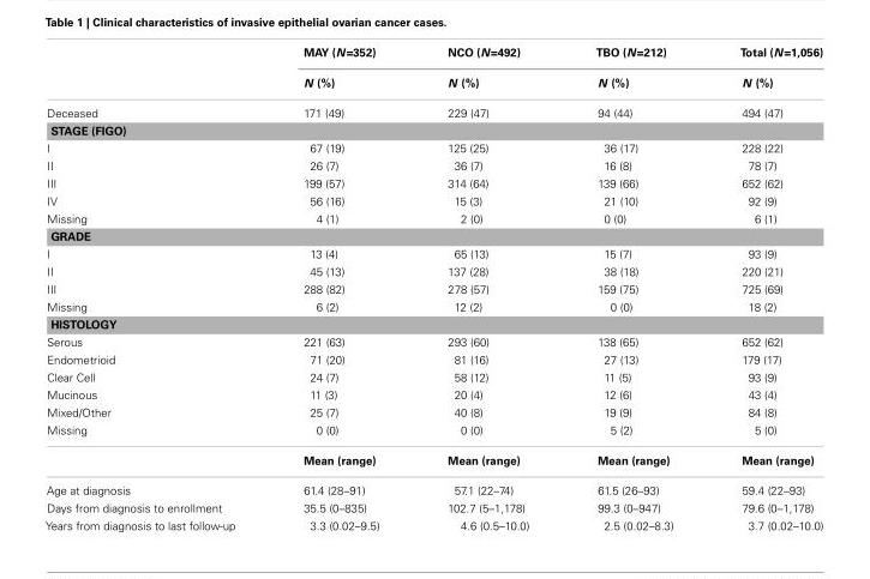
<table><thead><tr><td rowspan="2"></td><td rowspan="2">MAY (N=352) N (%)</td><td rowspan="2">NCO (N=492) N (%)</td><td rowspan="2">TBO (N=212) N (%)</td><td rowspan="2">Total (N=1,056) N (%)</td></tr><tr></tr></thead><tbody><tr><td>Deceased</td><td>171 (49)</td><td>229 (47)</td><td>94 (44)</td><td>494 (47)</td></tr><tr><td colspan="5">STAGE (FIGO)</td></tr><tr><td>I</td><td>67 (19)</td><td>125 (25)</td><td>36 (17)</td><td>228 (22)</td></tr><tr><td>II</td><td>26 (7)</td><td>36 (7)</td><td>16 (8)</td><td>78 (7)</td></tr><tr><td>III</td><td>199 (57)</td><td>314 (64)</td><td>139 (66)</td><td>652 (62)</td></tr><tr><td>IV</td><td>56 (16)</td><td>15 (3)</td><td>21 (10)</td><td>92 (9)</td></tr><tr><td>Missing</td><td>4 (1)</td><td>2 (0)</td><td>0 (0)</td><td>6 (1)</td></tr><tr><td colspan="5">GRADE</td></tr><tr><td>I</td><td>13 (4)</td><td>65 (13)</td><td>15 (7)</td><td>93 (9)</td></tr><tr><td>II</td><td>45 (13)</td><td>137 (28)</td><td>38 (18)</td><td>220 (21)</td></tr><tr><td>III</td><td>288 (82)</td><td>278 (57)</td><td>159 (75)</td><td>725 (69)</td></tr><tr><td>Missing</td><td>6 (2)</td><td>12 (2)</td><td>0 (0)</td><td>18 (2)</td></tr><tr><td colspan="5">HISTOLOGY</td></tr><tr><td>Serous</td><td>221 (63)</td><td>293 (60)</td><td>138 (65)</td><td>652 (62)</td></tr><tr><td>Endometrioid</td><td>71 (20)</td><td>81 (16)</td><td>27 (13)</td><td>179 (17)</td></tr><tr><td>Clear Cell</td><td>24 (7)</td><td>58 (12)</td><td>11 (5)</td><td>93 (9)</td></tr><tr><td>Mucinous</td><td>11 (3)</td><td>20 (4)</td><td>12 (6)</td><td>43 (4)</td></tr><tr><td>Mixed/Other</td><td>25 (7)</td><td>40 (8)</td><td>19 (9)</td><td>84 (8)</td></tr><tr><td rowspan="2">Missing</td><td>0 (0)</td><td>0 (0)</td><td>5 (2)</td><td>5 (0)</td></tr><tr><td>Mean (range)</td><td>Mean (range)</td><td>Mean (range)</td><td>Mean (range)</td></tr><tr><td>Age at diagnosis</td><td>61.4 (28–91)</td><td>57.1 (22–74)</td><td>61.5 (26–93)</td><td>59.4 (22–93)</td></tr><tr><td>Days from diagnosis to enrollment</td><td>35.5 (0–835)</td><td>102.7 (5–1,178)</td><td>99.3 (0–947)</td><td>79.6 (0–1,178)</td></tr><tr><td>Years from diagnosis to last follow-up</td><td>3.3 (0.02–9.5)</td><td>4.6 (0.5–10.0)</td><td>2.5 (0.02–8.3)</td><td>3.7 (0.02–10.0)</td></tr></tbody></table>